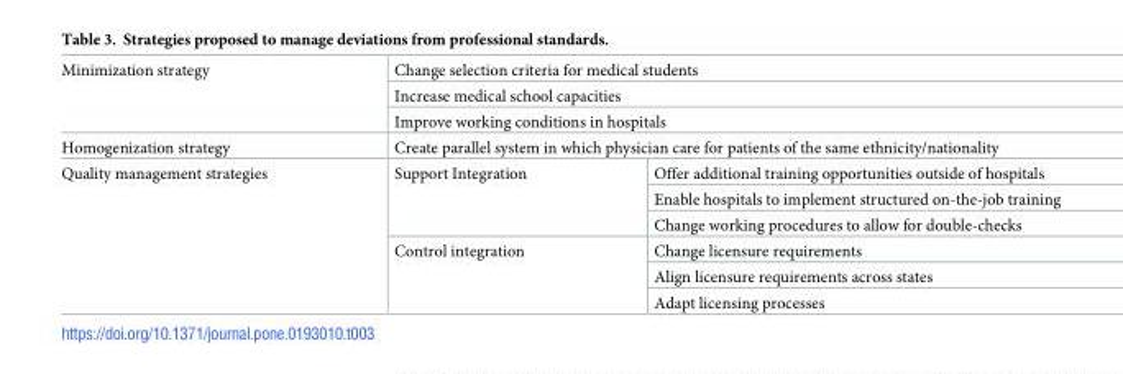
<table><tbody><tr><td rowspan="3">Minimization strategy</td><td colspan="2">Change selection criteria for medical students</td></tr><tr><td colspan="2">Increase medical school capacities</td></tr><tr><td colspan="2">Improve working conditions in hospitals</td></tr><tr><td>Homogenization strategy</td><td colspan="2">Create parallel system in which physician care for patients of the same ethnicity/nationality</td></tr><tr><td rowspan="6">Quality management strategies</td><td rowspan="3">Support Integration</td><td>Offer additional training opportunities outside of hospitals</td></tr><tr><td>Enable hospitals to implement structured on-the-job training</td></tr><tr><td>Change working procedures to allow for double-checks</td></tr><tr><td rowspan="3">Control integration</td><td>Change licensure requirements</td></tr><tr><td>Align licensure requirements across states</td></tr><tr><td>Adapt licensing processes</td></tr></tbody></table>